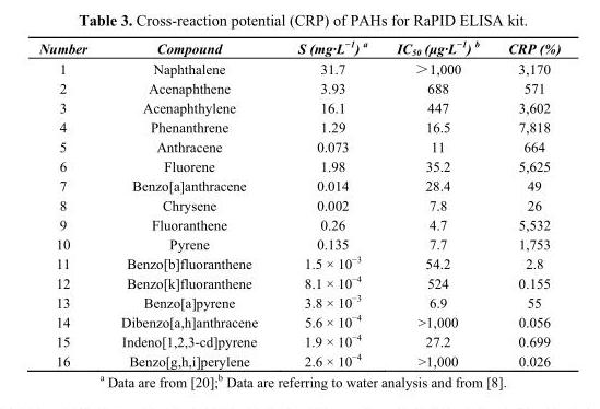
<table><thead><tr><td>Number</td><td>Compound</td><td>S (mg·L<sup>−1</sup>) <sup>a</sup></td><td>IC<sub>50</sub> (μg·L<sup>−1</sup>) <sup>b</sup></td><td>CRP (%)</td></tr></thead><tbody><tr><td>1</td><td>Naphthalene</td><td>31.7</td><td>＞1,000</td><td>3,170</td></tr><tr><td>2</td><td>Acenaphthene</td><td>3.93</td><td>688</td><td>571</td></tr><tr><td>3</td><td>Acenaphthylene</td><td>16.1</td><td>447</td><td>3,602</td></tr><tr><td>4</td><td>Phenanthrene</td><td>1.29</td><td>16.5</td><td>7,818</td></tr><tr><td>5</td><td>Anthracene</td><td>0.073</td><td>11</td><td>664</td></tr><tr><td>6</td><td>Fluorene</td><td>1.98</td><td>35.2</td><td>5,625</td></tr><tr><td>7</td><td>Benzo[a]anthracene</td><td>0.014</td><td>28.4</td><td>49</td></tr><tr><td>8</td><td>Chrysene</td><td>0.002</td><td>7.8</td><td>26</td></tr><tr><td>9</td><td>Fluoranthene</td><td>0.26</td><td>4.7</td><td>5,532</td></tr><tr><td>10</td><td>Pyrene</td><td>0.135</td><td>7.7</td><td>1,753</td></tr><tr><td>11</td><td>Benzo[b]fluoranthene</td><td>1.5 × 10<sup>−3</sup></td><td>54.2</td><td>2.8</td></tr><tr><td>12</td><td>Benzo[k]fluoranthene</td><td>8.1 × 10<sup>−4</sup></td><td>524</td><td>0.155</td></tr><tr><td>13</td><td>Benzo[a]pyrene</td><td>3.8 × 10<sup>−3</sup></td><td>6.9</td><td>55</td></tr><tr><td>14</td><td>Dibenzo[a,h]anthracene</td><td>5.6 × 10<sup>−4</sup></td><td>&gt;1,000</td><td>0.056</td></tr><tr><td>15</td><td>Indeno[1,2,3-cd]pyrene</td><td>1.9 × 10<sup>−4</sup></td><td>27.2</td><td>0.699</td></tr><tr><td>16</td><td>Benzo[g,h,i]perylene</td><td>2.6 × 10<sup>−4</sup></td><td>&gt;1,000</td><td>0.026</td></tr></tbody></table>